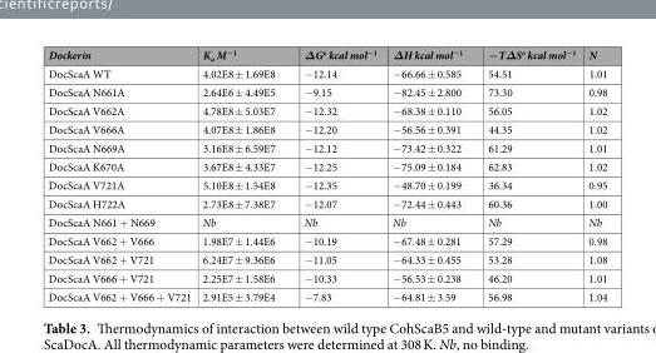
<table><thead><tr><td>Dockerin</td><td>K<sub>a</sub> M<sup>−1</sup></td><td>ΔG<sup>o</sup> kcal mol<sup>−1</sup></td><td>ΔH kcal mol<sup>−1</sup></td><td>−TΔS<sup>o</sup> kcal mol<sup>−1</sup></td><td>N</td></tr></thead><tbody><tr><td>DocScaA WT</td><td>4.02E8 ± 1.69E8</td><td>−12.14</td><td>−66.66 ± 0.585</td><td>54.51</td><td>1.01</td></tr><tr><td>DocScaA N661A</td><td>2.64E6 ± 4.49E5</td><td>−9.15</td><td>−82.45 ± 2.800</td><td>73.30</td><td>0.98</td></tr><tr><td>DocScaA V662A</td><td>4.78E8 ± 5.03E7</td><td>−12.32</td><td>−68.38 ± 0.110</td><td>56.05</td><td>1.02</td></tr><tr><td>DocScaA V666A</td><td>4.07E8 ± 1.86E8</td><td>−12.20</td><td>−56.56 ± 0.391</td><td>44.35</td><td>1.02</td></tr><tr><td>DocScaA N669A</td><td>3.16E8 ± 6.59E7</td><td>−12.12</td><td>−73.42 ± 0.322</td><td>61.29</td><td>1.01</td></tr><tr><td>DocScaA K670A</td><td>3.67E8 ± 4.33E7</td><td>−12.25</td><td>−75.09 ± 0.184</td><td>62.83</td><td>1.02</td></tr><tr><td>DocScaA V721A</td><td>5.10E8 ± 1.54E8</td><td>−12.35</td><td>−48.70 ± 0.199</td><td>36.34</td><td>0.95</td></tr><tr><td>DocScaA H722A</td><td>2.73E8 ± 7.38E7</td><td>−12.07</td><td>−72.44 ± 0.443</td><td>60.36</td><td>1.00</td></tr><tr><td>DocScaA N661 + N669</td><td>Nb</td><td>Nb</td><td>Nb</td><td>Nb</td><td>Nb</td></tr><tr><td>DocScaA V662 + V666</td><td>1.98E7 ± 1.44E6</td><td>−10.19</td><td>−67.48 ± 0.281</td><td>57.29</td><td>0.98</td></tr><tr><td>DocScaA V662 + V721</td><td>6.24E7 ± 9.36E6</td><td>−11.05</td><td>−64.33 ± 0.455</td><td>53.28</td><td>1.08</td></tr><tr><td>DocScaA V666 + V721</td><td>2.25E7 ± 1.58E6</td><td>−10.33</td><td>−56.53 ± 0.238</td><td>46.20</td><td>1.01</td></tr><tr><td>DocScaA V662 + V666 + V721</td><td>2.91E5 ± 3.79E4</td><td>−7.83</td><td>−64.81 ± 3.59</td><td>56.98</td><td>1.04</td></tr></tbody></table>